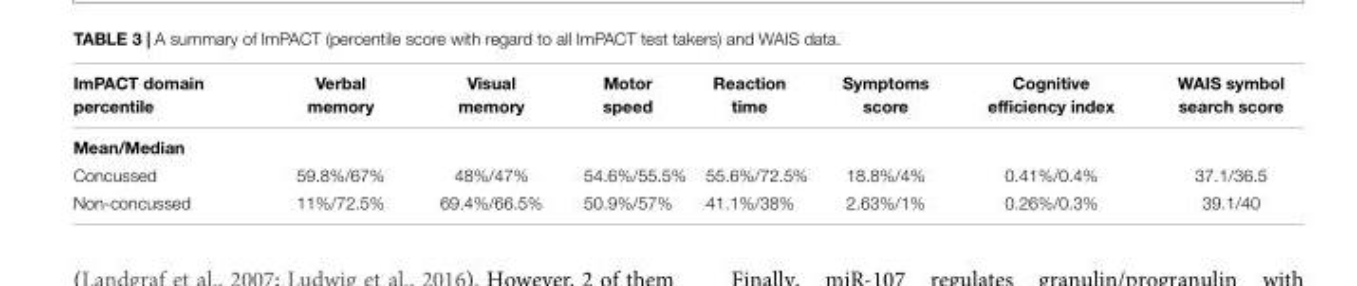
<table><thead><tr><td>ImPACT domain percentile</td><td>Verbal memory</td><td>Visual memory</td><td>Motor speed</td><td>Reaction time</td><td>Symptoms score</td><td>Cognitive efficiency index</td><td>WAIS symbol search score</td></tr></thead><tbody><tr><td colspan="8">Mean/Median</td></tr><tr><td>Concussed</td><td>59.8%/67%</td><td>48%/47%</td><td>54.6%/55.5%</td><td>55.6%/72.5%</td><td>18.8%/4%</td><td>0.41%/0.4%</td><td>37.1/36.5</td></tr><tr><td>Non-concussed</td><td>11%/72.5%</td><td>69.4%/66.5%</td><td>50.9%/57%</td><td>41.1%/38%</td><td>2.63%/1%</td><td>0.26%/0.3%</td><td>39.1/40</td></tr></tbody></table>